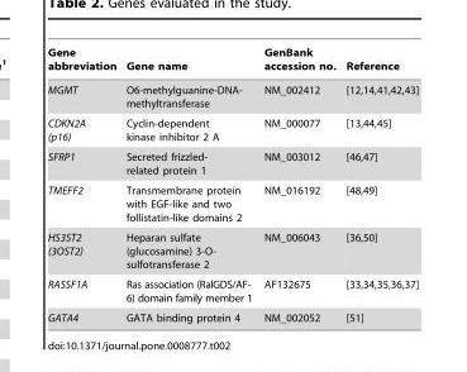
<table><thead><tr><td>Gene abbreviation</td><td>Gene name</td><td>GenBank accession no.</td><td>Reference</td></tr></thead><tbody><tr><td>MGMT</td><td>O6-methylguanine-DNA- methyltransferase</td><td>NM_002412</td><td>[12,14,41,42,43]</td></tr><tr><td>CDKN2A (p16)</td><td>Cyclin-dependent kinase inhibitor 2 A</td><td>NM_000077</td><td>[13,44,45]</td></tr><tr><td>SFRP1</td><td>Secreted frizzled- related protein 1</td><td>NM_003012</td><td>[46,47]</td></tr><tr><td>TMEFF2</td><td>Transmembrane protein with EGF-like and two follistatin-like domains 2</td><td>NM_016192</td><td>[48,49]</td></tr><tr><td>HS3ST2 (3OST2)</td><td>Heparan sulfate (glucosamine) 3-O- sulfotransferase 2</td><td>NM_006043</td><td>[36,50]</td></tr><tr><td>RASSF1A</td><td>Ras association (RalGDS/AF- 6) domain family member 1</td><td>AF132675</td><td>[33,34,35,36,37]</td></tr><tr><td>GATA4</td><td>GATA binding protein 4</td><td>NM_002052</td><td>[51]</td></tr></tbody></table>